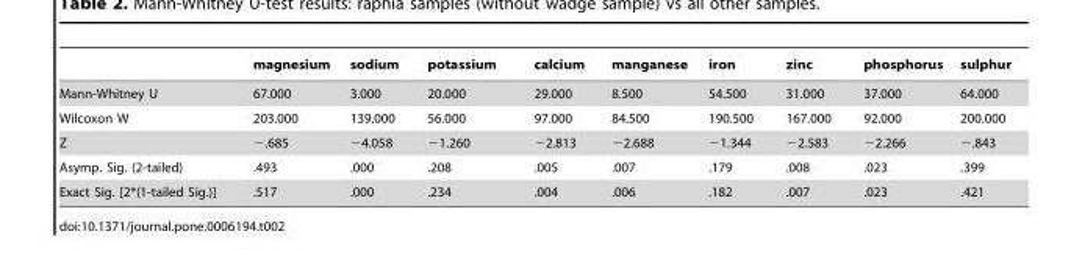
<table><thead><tr><td></td><td>magnesium</td><td>sodium</td><td>potassium</td><td>calcium</td><td>manganese</td><td>iron</td><td>zinc</td><td>phosphorus</td><td>sulphur</td></tr></thead><tbody><tr><td>Mann-Whitney U</td><td>67.000</td><td>3.000</td><td>20.000</td><td>29.000</td><td>8.500</td><td>54.500</td><td>31.000</td><td>37.000</td><td>64.000</td></tr><tr><td>Wilcoxon W</td><td>203.000</td><td>139.000</td><td>56.000</td><td>97.000</td><td>84.500</td><td>190.500</td><td>167.000</td><td>92.000</td><td>200.000</td></tr><tr><td>Z</td><td>−.685</td><td>−4.058</td><td>−1.260</td><td>−2.813</td><td>−2.688</td><td>−1.344</td><td>−2.583</td><td>−2.266</td><td>−.843</td></tr><tr><td>Asymp. Sig. (2-tailed)</td><td>.493</td><td>.000</td><td>.208</td><td>.005</td><td>.007</td><td>.179</td><td>.008</td><td>.023</td><td>.399</td></tr><tr><td>Exact Sig. [2*(1-tailed Sig.)]</td><td>.517</td><td>.000</td><td>.234</td><td>.004</td><td>.006</td><td>.182</td><td>.007</td><td>.023</td><td>.421</td></tr></tbody></table>